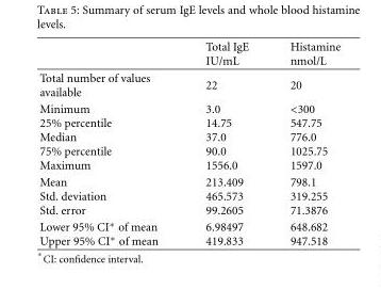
<table><thead><tr><td></td><td>Total IgE IU/mL</td><td>Histamine nmol/L</td></tr></thead><tbody><tr><td>Total number of values available</td><td>22</td><td>20</td></tr><tr><td>Minimum 25% percentile Median 75% percentile Maximum</td><td>3.0 14.75 37.0 90.0 1556.0</td><td>&lt;300 547.75 776.0 1025.75 1597.0</td></tr><tr><td>Mean Std. deviation Std. error</td><td>213.409 465.573 99.2605</td><td>798.1 319.255 71.3876</td></tr><tr><td>Lower 95% CI∗ of mean Upper 95% CI∗ of mean</td><td>6.98497 419.833</td><td>648.682 947.518</td></tr></tbody></table>